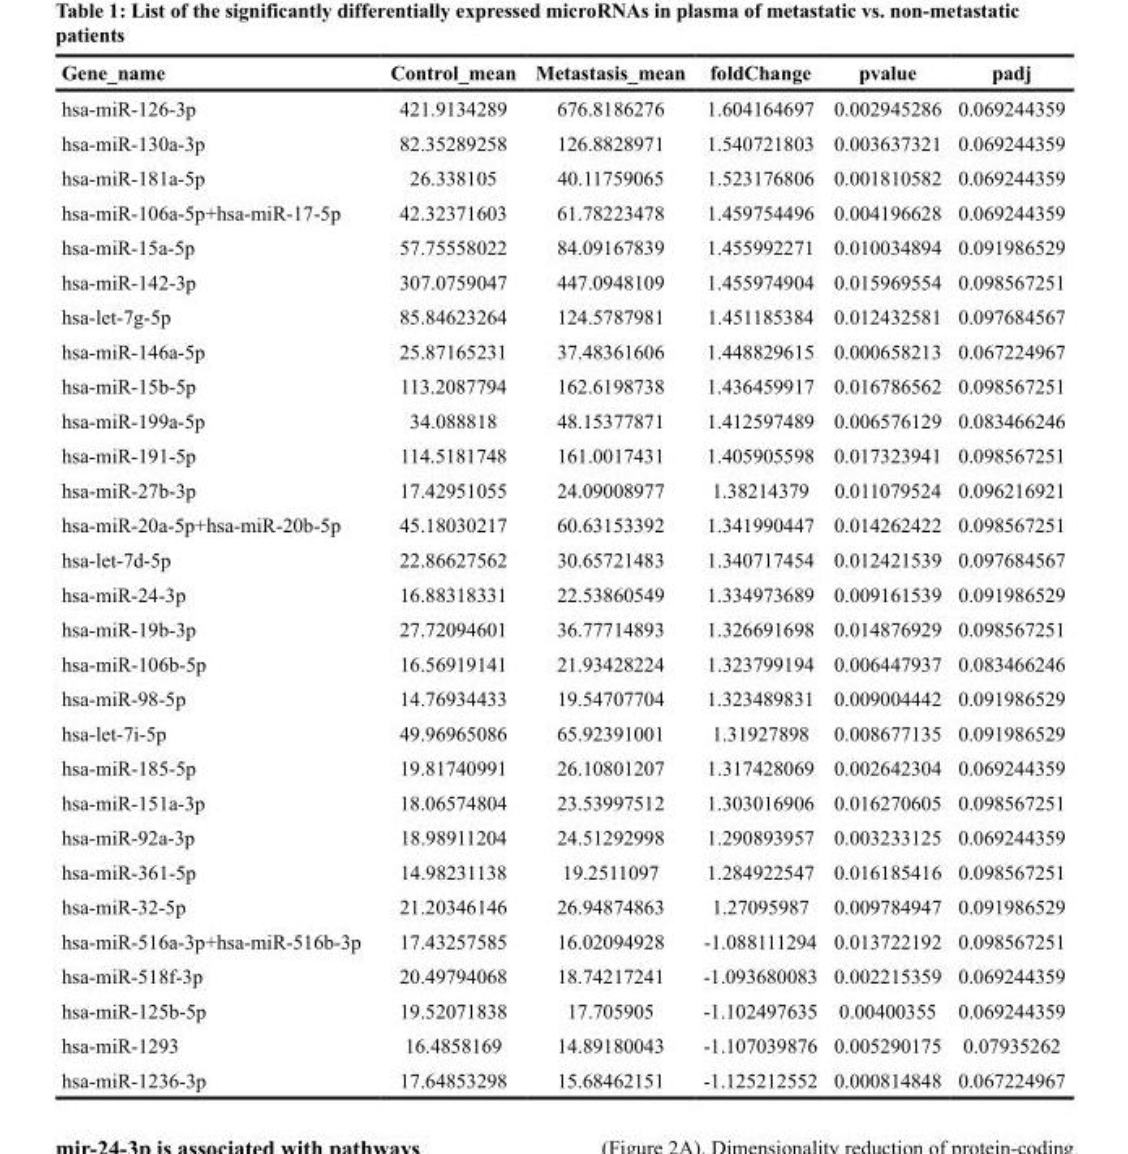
<table><thead><tr><td>Gene_name</td><td>Control_mean</td><td>Metastasis_mean</td><td>foldChange</td><td>pvalue</td><td>padj</td></tr></thead><tbody><tr><td>hsa-miR-126-3p</td><td>421.9134289</td><td>676.8186276</td><td>1.604164697</td><td>0.002945286</td><td>0.069244359</td></tr><tr><td>hsa-miR-130a-3p</td><td>82.35289258</td><td>126.8828971</td><td>1.540721803</td><td>0.003637321</td><td>0.069244359</td></tr><tr><td>hsa-miR-181a-5p</td><td>26.338105</td><td>40.11759065</td><td>1.523176806</td><td>0.001810582</td><td>0.069244359</td></tr><tr><td>hsa-miR-106a-5p+hsa-miR-17-5p</td><td>42.32371603</td><td>61.78223478</td><td>1.459754496</td><td>0.004196628</td><td>0.069244359</td></tr><tr><td>hsa-miR-15a-5p</td><td>57.75558022</td><td>84.09167839</td><td>1.455992271</td><td>0.010034894</td><td>0.091986529</td></tr><tr><td>hsa-miR-142-3p</td><td>307.0759047</td><td>447.0948109</td><td>1.455974904</td><td>0.015969554</td><td>0.098567251</td></tr><tr><td>hsa-let-7g-5p</td><td>85.84623264</td><td>124.5787981</td><td>1.451185384</td><td>0.012432581</td><td>0.097684567</td></tr><tr><td>hsa-miR-146a-5p</td><td>25.87165231</td><td>37.48361606</td><td>1.448829615</td><td>0.000658213</td><td>0.067224967</td></tr><tr><td>hsa-miR-15b-5p</td><td>113.2087794</td><td>162.6198738</td><td>1.436459917</td><td>0.016786562</td><td>0.098567251</td></tr><tr><td>hsa-miR-199a-5p</td><td>34.088818</td><td>48.15377871</td><td>1.412597489</td><td>0.006576129</td><td>0.083466246</td></tr><tr><td>hsa-miR-191-5p</td><td>114.5181748</td><td>161.0017431</td><td>1.405905598</td><td>0.017323941</td><td>0.098567251</td></tr><tr><td>hsa-miR-27b-3p</td><td>17.42951055</td><td>24.09008977</td><td>1.38214379</td><td>0.011079524</td><td>0.096216921</td></tr><tr><td>hsa-miR-20a-5p+hsa-miR-20b-5p</td><td>45.18030217</td><td>60.63153392</td><td>1.341990447</td><td>0.014262422</td><td>0.098567251</td></tr><tr><td>hsa-let-7d-5p</td><td>22.86627562</td><td>30.65721483</td><td>1.340717454</td><td>0.012421539</td><td>0.097684567</td></tr><tr><td>hsa-miR-24-3p</td><td>16.88318331</td><td>22.53860549</td><td>1.334973689</td><td>0.009161539</td><td>0.091986529</td></tr><tr><td>hsa-miR-19b-3p</td><td>27.72094601</td><td>36.77714893</td><td>1.326691698</td><td>0.014876929</td><td>0.098567251</td></tr><tr><td>hsa-miR-106b-5p</td><td>16.56919141</td><td>21.93428224</td><td>1.323799194</td><td>0.006447937</td><td>0.083466246</td></tr><tr><td>hsa-miR-98-5p</td><td>14.76934433</td><td>19.54707704</td><td>1.323489831</td><td>0.009004442</td><td>0.091986529</td></tr><tr><td>hsa-let-7i-5p</td><td>49.96965086</td><td>65.92391001</td><td>1.31927898</td><td>0.008677135</td><td>0.091986529</td></tr><tr><td>hsa-miR-185-5p</td><td>19.81740991</td><td>26.10801207</td><td>1.317428069</td><td>0.002642304</td><td>0.069244359</td></tr><tr><td>hsa-miR-151a-3p</td><td>18.06574804</td><td>23.53997512</td><td>1.303016906</td><td>0.016270605</td><td>0.098567251</td></tr><tr><td>hsa-miR-92a-3p</td><td>18.98911204</td><td>24.51292998</td><td>1.290893957</td><td>0.003233125</td><td>0.069244359</td></tr><tr><td>hsa-miR-361-5p</td><td>14.98231138</td><td>19.2511097</td><td>1.284922547</td><td>0.016185416</td><td>0.098567251</td></tr><tr><td>hsa-miR-32-5p</td><td>21.20346146</td><td>26.94874863</td><td>1.27095987</td><td>0.009784947</td><td>0.091986529</td></tr><tr><td>hsa-miR-516a-3p+hsa-miR-516b-3p</td><td>17.43257585</td><td>16.02094928</td><td>-1.088111294</td><td>0.013722192</td><td>0.098567251</td></tr><tr><td>hsa-miR-518f-3p</td><td>20.49794068</td><td>18.74217241</td><td>-1.093680083</td><td>0.002215359</td><td>0.069244359</td></tr><tr><td>hsa-miR-125b-5p</td><td>19.52071838</td><td>17.705905</td><td>-1.102497635</td><td>0.00400355</td><td>0.069244359</td></tr><tr><td>hsa-miR-1293</td><td>16.4858169</td><td>14.89180043</td><td>-1.107039876</td><td>0.005290175</td><td>0.07935262</td></tr><tr><td>hsa-miR-1236-3p</td><td>17.64853298</td><td>15.68462151</td><td>-1.125212552</td><td>0.000814848</td><td>0.067224967</td></tr></tbody></table>